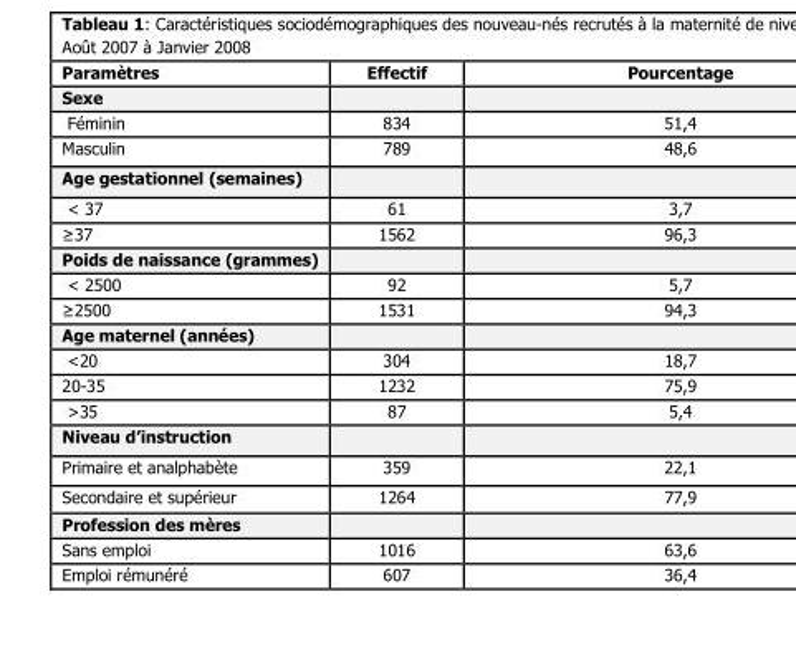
<table><thead><tr><td>Paramètres</td><td>Effectif</td><td>Pourcentage</td></tr></thead><tbody><tr><td colspan="3">Sexe</td></tr><tr><td>Féminin</td><td>834</td><td>51,4</td></tr><tr><td>Masculin</td><td>789</td><td>48,6</td></tr><tr><td colspan="3">Age gestationnel (semaines)</td></tr><tr><td>&lt; 37</td><td>61</td><td>3,7</td></tr><tr><td>≥37</td><td>1562</td><td>96,3</td></tr><tr><td colspan="3">Poids de naissance (grammes)</td></tr><tr><td>&lt; 2500</td><td>92</td><td>5,7</td></tr><tr><td>≥2500</td><td>1531</td><td>94,3</td></tr><tr><td colspan="3">Age maternel (années)</td></tr><tr><td>&lt;20</td><td>304</td><td>18,7</td></tr><tr><td>20-35</td><td>1232</td><td>75,9</td></tr><tr><td>&gt;35</td><td>87</td><td>5,4</td></tr><tr><td colspan="3">Niveau d’instruction</td></tr><tr><td>Primaire et analphabète</td><td>359</td><td>22,1</td></tr><tr><td>Secondaire et supérieur</td><td>1264</td><td>77,9</td></tr><tr><td colspan="3">Profession des mères</td></tr><tr><td>Sans emploi</td><td>1016</td><td>63,6</td></tr><tr><td>Emploi rémunéré</td><td>607</td><td>36,4</td></tr></tbody></table>